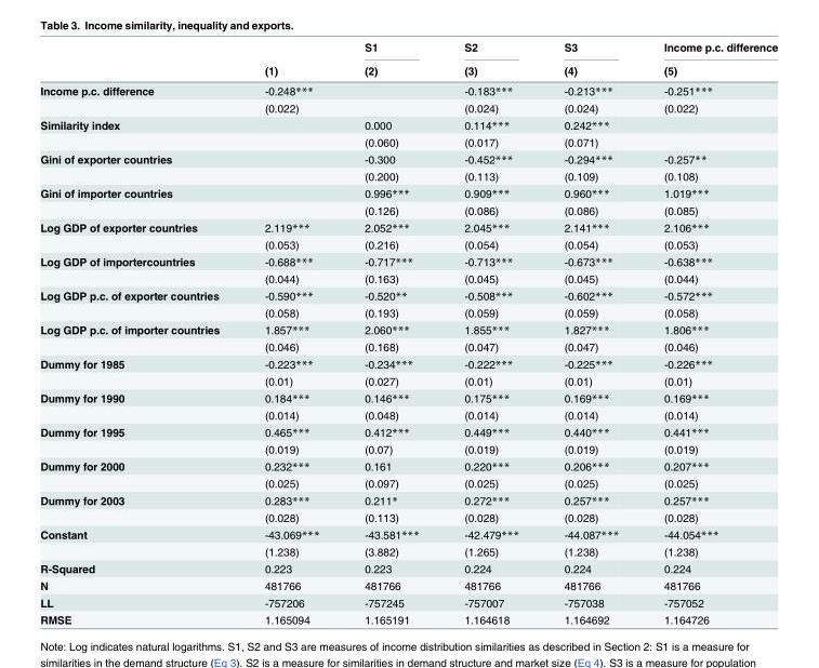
<table><thead><tr><td rowspan="2"></td><td rowspan="2">(1)</td><td rowspan="2">S1 (2)</td><td rowspan="2">S2 (3)</td><td rowspan="2">S3 (4)</td><td rowspan="2">Income p.c. difference (5)</td></tr><tr></tr></thead><tbody><tr><td rowspan="2">Income p.c. difference</td><td>-0.248***</td><td></td><td>-0.183***</td><td>-0.213***</td><td>-0.251***</td></tr><tr><td>(0.022)</td><td></td><td>(0.024)</td><td>(0.024)</td><td>(0.022)</td></tr><tr><td rowspan="2">Similarity index</td><td></td><td>0.000</td><td>0.114***</td><td>0.242***</td><td></td></tr><tr><td></td><td>(0.060)</td><td>(0.017)</td><td>(0.071)</td><td></td></tr><tr><td rowspan="2">Gini of exporter countries</td><td></td><td>-0.300</td><td>-0.452***</td><td>-0.294***</td><td>-0.257**</td></tr><tr><td></td><td>(0.200)</td><td>(0.113)</td><td>(0.109)</td><td>(0.108)</td></tr><tr><td rowspan="2">Gini of importer countries</td><td></td><td>0.996***</td><td>0.909***</td><td>0.960***</td><td>1.019***</td></tr><tr><td></td><td>(0.126)</td><td>(0.086)</td><td>(0.086)</td><td>(0.085)</td></tr><tr><td rowspan="2">Log GDP of exporter countries</td><td>2.119***</td><td>2.052***</td><td>2.045***</td><td>2.141***</td><td>2.106***</td></tr><tr><td>(0.053)</td><td>(0.216)</td><td>(0.054)</td><td>(0.054)</td><td>(0.053)</td></tr><tr><td rowspan="2">Log GDP of importercountries</td><td>-0.688***</td><td>-0.717***</td><td>-0.713***</td><td>-0.673***</td><td>-0.638***</td></tr><tr><td>(0.044)</td><td>(0.163)</td><td>(0.045)</td><td>(0.045)</td><td>(0.044)</td></tr><tr><td rowspan="2">Log GDP p.c. of exporter countries</td><td>-0.590***</td><td>-0.520**</td><td>-0.508***</td><td>-0.602***</td><td>-0.572***</td></tr><tr><td>(0.058)</td><td>(0.193)</td><td>(0.059)</td><td>(0.059)</td><td>(0.058)</td></tr><tr><td rowspan="2">Log GDP p.c. of importer countries</td><td>1.857***</td><td>2.060***</td><td>1.855***</td><td>1.827***</td><td>1.806***</td></tr><tr><td>(0.046)</td><td>(0.168)</td><td>(0.047)</td><td>(0.047)</td><td>(0.046)</td></tr><tr><td rowspan="2">Dummy for 1985</td><td>-0.223***</td><td>-0.234***</td><td>-0.222***</td><td>-0.225***</td><td>-0.226***</td></tr><tr><td>(0.01)</td><td>(0.027)</td><td>(0.01)</td><td>(0.01)</td><td>(0.01)</td></tr><tr><td rowspan="2">Dummy for 1990</td><td>0.184***</td><td>0.146***</td><td>0.175***</td><td>0.169***</td><td>0.169***</td></tr><tr><td>(0.014)</td><td>(0.048)</td><td>(0.014)</td><td>(0.014)</td><td>(0.014)</td></tr><tr><td rowspan="2">Dummy for 1995</td><td>0.465***</td><td>0.412***</td><td>0.449***</td><td>0.440***</td><td>0.441***</td></tr><tr><td>(0.019)</td><td>(0.07)</td><td>(0.019)</td><td>(0.019)</td><td>(0.019)</td></tr><tr><td rowspan="2">Dummy for 2000</td><td>0.232***</td><td>0.161</td><td>0.220***</td><td>0.206***</td><td>0.207***</td></tr><tr><td>(0.025)</td><td>(0.097)</td><td>(0.025)</td><td>(0.025)</td><td>(0.025)</td></tr><tr><td rowspan="2">Dummy for 2003</td><td>0.283***</td><td>0.211*</td><td>0.272***</td><td>0.257***</td><td>0.257***</td></tr><tr><td>(0.028)</td><td>(0.113)</td><td>(0.028)</td><td>(0.028)</td><td>(0.028)</td></tr><tr><td rowspan="2">Constant</td><td>-43.069***</td><td>-43.581***</td><td>-42.479***</td><td>-44.087***</td><td>-44.054***</td></tr><tr><td>(1.238)</td><td>(3.882)</td><td>(1.265)</td><td>(1.238)</td><td>(1.238)</td></tr><tr><td>R-Squared</td><td>0.223</td><td>0.223</td><td>0.224</td><td>0.224</td><td>0.224</td></tr><tr><td>N</td><td>481766</td><td>481766</td><td>481766</td><td>481766</td><td>481766</td></tr><tr><td>LL</td><td>-757206</td><td>-757245</td><td>-757007</td><td>-757038</td><td>-757052</td></tr><tr><td>RMSE</td><td>1.165094</td><td>1.165191</td><td>1.164618</td><td>1.164692</td><td>1.164726</td></tr></tbody></table>